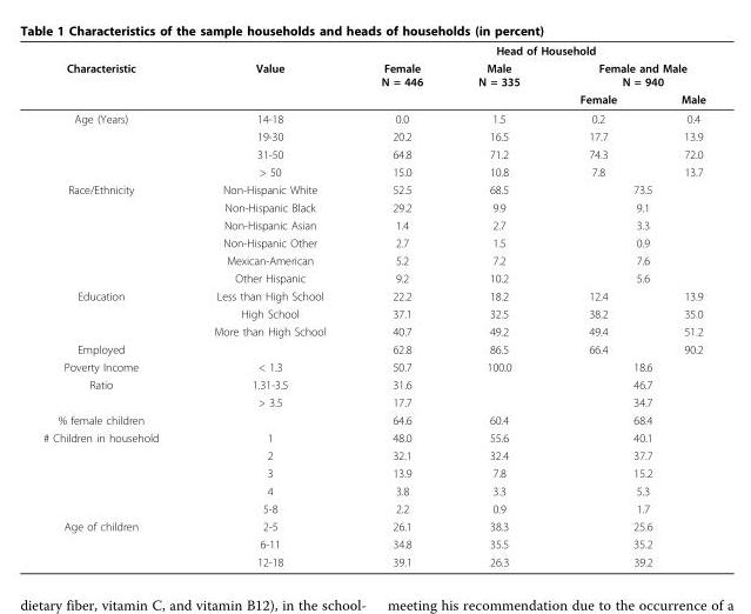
<table><thead><tr><td rowspan="3">Characteristic</td><td rowspan="3">Value</td><td colspan="4">Head of Household</td></tr><tr><td rowspan="2">Female N = 446</td><td rowspan="2">Male N = 335</td><td colspan="2">Female and Male N = 940</td></tr><tr><td>Female</td><td>Male</td></tr></thead><tbody><tr><td rowspan="4">Age (Years)</td><td>14-18</td><td>0.0</td><td>1.5</td><td>0.2</td><td>0.4</td></tr><tr><td>19-30</td><td>20.2</td><td>16.5</td><td>17.7</td><td>13.9</td></tr><tr><td>31-50</td><td>64.8</td><td>71.2</td><td>74.3</td><td>72.0</td></tr><tr><td>&gt; 50</td><td>15.0</td><td>10.8</td><td>7.8</td><td>13.7</td></tr><tr><td rowspan="6">Race/Ethnicity</td><td>Non-Hispanic White</td><td>52.5</td><td>68.5</td><td colspan="2">73.5</td></tr><tr><td>Non-Hispanic Black</td><td>29.2</td><td>9.9</td><td colspan="2">9.1</td></tr><tr><td>Non-Hispanic Asian</td><td>1.4</td><td>2.7</td><td colspan="2">3.3</td></tr><tr><td>Non-Hispanic Other</td><td>2.7</td><td>1.5</td><td colspan="2">0.9</td></tr><tr><td>Mexican-American</td><td>5.2</td><td>7.2</td><td colspan="2">7.6</td></tr><tr><td>Other Hispanic</td><td>9.2</td><td>10.2</td><td colspan="2">5.6</td></tr><tr><td rowspan="3">Education</td><td>Less than High School</td><td>22.2</td><td>18.2</td><td>12.4</td><td>13.9</td></tr><tr><td>High School</td><td>37.1</td><td>32.5</td><td>38.2</td><td>35.0</td></tr><tr><td>More than High School</td><td>40.7</td><td>49.2</td><td>49.4</td><td>51.2</td></tr><tr><td>Employed</td><td></td><td>62.8</td><td>86.5</td><td>66.4</td><td>90.2</td></tr><tr><td>Poverty Income</td><td>&lt; 1.3</td><td>50.7</td><td>100.0</td><td colspan="2">18.6</td></tr><tr><td rowspan="2">Ratio</td><td>1.31-3.5</td><td>31.6</td><td></td><td colspan="2">46.7</td></tr><tr><td>&gt; 3.5</td><td>17.7</td><td></td><td colspan="2">34.7</td></tr><tr><td>% female children</td><td></td><td>64.6</td><td>60.4</td><td colspan="2">68.4</td></tr><tr><td rowspan="5"># Children in household</td><td>1</td><td>48.0</td><td>55.6</td><td colspan="2">40.1</td></tr><tr><td>2</td><td>32.1</td><td>32.4</td><td colspan="2">37.7</td></tr><tr><td>3</td><td>13.9</td><td>7.8</td><td colspan="2">15.2</td></tr><tr><td>4</td><td>3.8</td><td>3.3</td><td colspan="2">5.3</td></tr><tr><td>5-8</td><td>2.2</td><td>0.9</td><td colspan="2">1.7</td></tr><tr><td rowspan="3">Age of children</td><td>2-5</td><td>26.1</td><td>38.3</td><td colspan="2">25.6</td></tr><tr><td>6-11</td><td>34.8</td><td>35.5</td><td colspan="2">35.2</td></tr><tr><td>12-18</td><td>39.1</td><td>26.3</td><td colspan="2">39.2</td></tr></tbody></table>